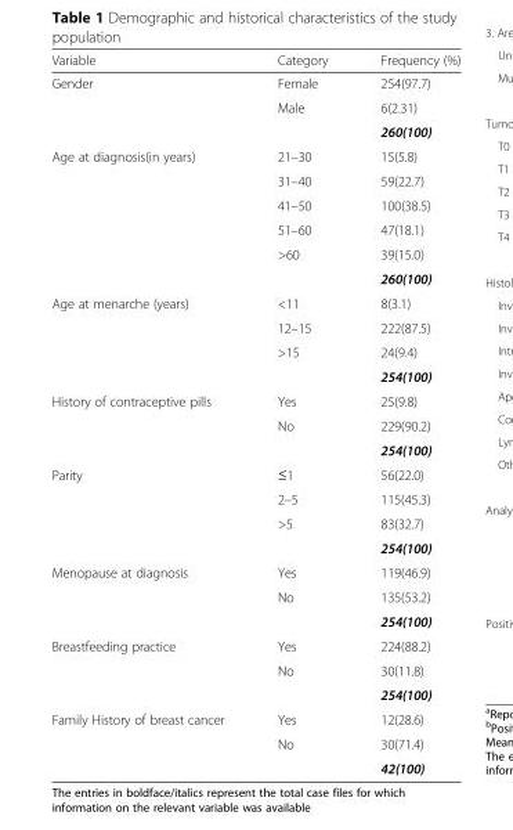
<table><thead><tr><td>Variable</td><td>Category</td><td>Frequency (%)</td></tr></thead><tbody><tr><td rowspan="3">Gender</td><td>Female</td><td>254(97.7)</td></tr><tr><td>Male</td><td>6(2.31)</td></tr><tr><td></td><td>260(100)</td></tr><tr><td rowspan="6">Age at diagnosis(in years)</td><td>21–30</td><td>15(5.8)</td></tr><tr><td>31–40</td><td>59(22.7)</td></tr><tr><td>41–50</td><td>100(38.5)</td></tr><tr><td>51–60</td><td>47(18.1)</td></tr><tr><td>&gt;60</td><td>39(15.0)</td></tr><tr><td></td><td>260(100)</td></tr><tr><td rowspan="4">Age at menarche (years)</td><td>&lt;11</td><td>8(3.1)</td></tr><tr><td>12–15</td><td>222(87.5)</td></tr><tr><td>&gt;15</td><td>24(9.4)</td></tr><tr><td></td><td>254(100)</td></tr><tr><td rowspan="3">History of contraceptive pills</td><td>Yes</td><td>25(9.8)</td></tr><tr><td>No</td><td>229(90.2)</td></tr><tr><td></td><td>254(100)</td></tr><tr><td rowspan="4">Parity</td><td>≤1</td><td>56(22.0)</td></tr><tr><td>2–5</td><td>115(45.3)</td></tr><tr><td>&gt;5</td><td>83(32.7)</td></tr><tr><td></td><td>254(100)</td></tr><tr><td rowspan="3">Menopause at diagnosis</td><td>Yes</td><td>119(46.9)</td></tr><tr><td>No</td><td>135(53.2)</td></tr><tr><td></td><td>254(100)</td></tr><tr><td rowspan="3">Breastfeeding practice</td><td>Yes</td><td>224(88.2)</td></tr><tr><td>No</td><td>30(11.8)</td></tr><tr><td></td><td>254(100)</td></tr><tr><td rowspan="3">Family History of breast cancer</td><td>Yes</td><td>12(28.6)</td></tr><tr><td>No</td><td>30(71.4)</td></tr><tr><td></td><td>42(100)</td></tr></tbody></table>